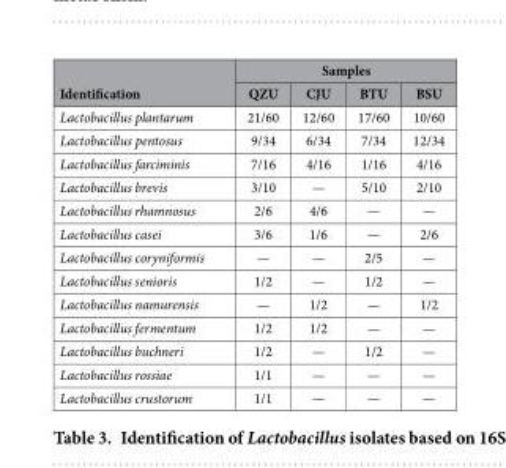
<table><thead><tr><td rowspan="2">Identification</td><td colspan="4">Samples</td></tr><tr><td>QZU</td><td>CJU</td><td>BTU</td><td>BSU</td></tr></thead><tbody><tr><td>Lactobacillus plantarum</td><td>21/60</td><td>12/60</td><td>17/60</td><td>10/60</td></tr><tr><td>Lactobacillus pentosus</td><td>9/34</td><td>6/34</td><td>7/34</td><td>12/34</td></tr><tr><td>Lactobacillus farciminis</td><td>7/16</td><td>4/16</td><td>1/16</td><td>4/16</td></tr><tr><td>Lactobacillus brevis</td><td>3/10</td><td>—</td><td>5/10</td><td>2/10</td></tr><tr><td>Lactobacillus rhamnosus</td><td>2/6</td><td>4/6</td><td>—</td><td>—</td></tr><tr><td>Lactobacillus casei</td><td>3/6</td><td>1/6</td><td>—</td><td>2/6</td></tr><tr><td>Lactobacillus coryniformis</td><td>—</td><td>—</td><td>2/5</td><td>—</td></tr><tr><td>Lactobacillus senioris</td><td>1/2</td><td>—</td><td>1/2</td><td>—</td></tr><tr><td>Lactobacillus namurensis</td><td>—</td><td>1/2</td><td>—</td><td>1/2</td></tr><tr><td>Lactobacillus fermentum</td><td>1/2</td><td>1/2</td><td>—</td><td>—</td></tr><tr><td>Lactobacillus buchneri</td><td>1/2</td><td>—</td><td>1/2</td><td>—</td></tr><tr><td>Lactobacillus rossiae</td><td>1/1</td><td>—</td><td>—</td><td>—</td></tr><tr><td>Lactobacillus crustorum</td><td>1/1</td><td>—</td><td>—</td><td>—</td></tr></tbody></table>